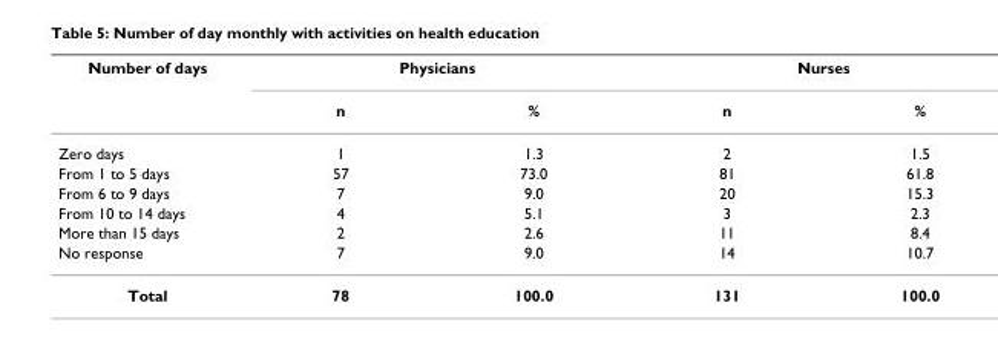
<table><thead><tr><td rowspan="2">Number of days</td><td colspan="2">Physicians</td><td colspan="2">Nurses</td></tr><tr><td>n</td><td>%</td><td>n</td><td>%</td></tr></thead><tbody><tr><td>Zero days</td><td>1</td><td>1.3</td><td>2</td><td>1.5</td></tr><tr><td>From 1 to 5 days</td><td>57</td><td>73.0</td><td>81</td><td>61.8</td></tr><tr><td>From 6 to 9 days</td><td>7</td><td>9.0</td><td>20</td><td>15.3</td></tr><tr><td>From 10 to 14 days</td><td>4</td><td>5.1</td><td>3</td><td>2.3</td></tr><tr><td>More than 15 days</td><td>2</td><td>2.6</td><td>11</td><td>8.4</td></tr><tr><td>No response</td><td>7</td><td>9.0</td><td>14</td><td>10.7</td></tr><tr><td>Total</td><td>78</td><td>100.0</td><td>131</td><td>100.0</td></tr></tbody></table>